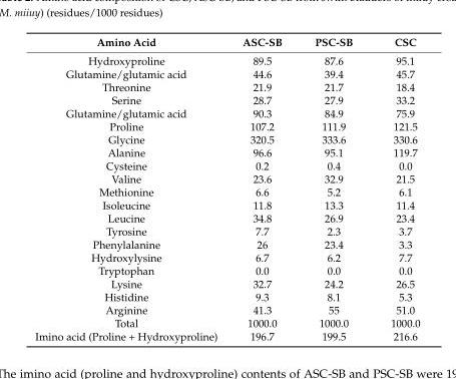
<table><thead><tr><td>Amino Acid</td><td>ASC-SB</td><td>PSC-SB</td><td>CSC</td></tr></thead><tbody><tr><td>Hydroxyproline</td><td>89.5</td><td>87.6</td><td>95.1</td></tr><tr><td>Glutamine/glutamic acid</td><td>44.6</td><td>39.4</td><td>45.7</td></tr><tr><td>Threonine</td><td>21.9</td><td>21.7</td><td>18.4</td></tr><tr><td>Serine</td><td>28.7</td><td>27.9</td><td>33.2</td></tr><tr><td>Glutamine/glutamic acid</td><td>90.3</td><td>84.9</td><td>75.9</td></tr><tr><td>Proline</td><td>107.2</td><td>111.9</td><td>121.5</td></tr><tr><td>Glycine</td><td>320.5</td><td>333.6</td><td>330.6</td></tr><tr><td>Alanine</td><td>96.6</td><td>95.1</td><td>119.7</td></tr><tr><td>Cysteine</td><td>0.2</td><td>0.4</td><td>0.0</td></tr><tr><td>Valine</td><td>23.6</td><td>32.9</td><td>21.5</td></tr><tr><td>Methionine</td><td>6.6</td><td>5.2</td><td>6.1</td></tr><tr><td>Isoleucine</td><td>11.8</td><td>13.3</td><td>11.4</td></tr><tr><td>Leucine</td><td>34.8</td><td>26.9</td><td>23.4</td></tr><tr><td>Tyrosine</td><td>7.7</td><td>2.3</td><td>3.7</td></tr><tr><td>Phenylalanine</td><td>26</td><td>23.4</td><td>3.3</td></tr><tr><td>Hydroxylysine</td><td>6.7</td><td>6.2</td><td>7.7</td></tr><tr><td>Tryptophan</td><td>0.0</td><td>0.0</td><td>0.0</td></tr><tr><td>Lysine</td><td>32.7</td><td>24.2</td><td>26.5</td></tr><tr><td>Histidine</td><td>9.3</td><td>8.1</td><td>5.3</td></tr><tr><td>Arginine</td><td>41.3</td><td>55</td><td>51.0</td></tr><tr><td>Total</td><td>1000.0</td><td>1000.0</td><td>1000.0</td></tr><tr><td>Imino acid (Proline + Hydroxyproline)</td><td>196.7</td><td>199.5</td><td>216.6</td></tr></tbody></table>